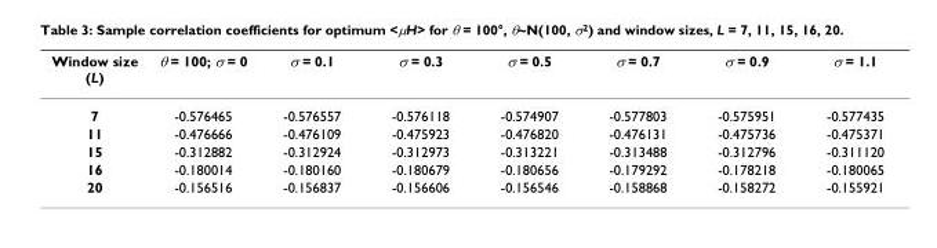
<table><thead><tr><td>Window size (L)</td><td>θ = 100; σ = 0</td><td>σ = 0.1</td><td>σ = 0.3</td><td>σ = 0.5</td><td>σ = 0.7</td><td>σ = 0.9</td><td>σ = 1.1</td></tr></thead><tbody><tr><td>7</td><td>-0.576465</td><td>-0.576557</td><td>-0.576118</td><td>-0.574907</td><td>-0.577803</td><td>-0.575951</td><td>-0.577435</td></tr><tr><td>11</td><td>-0.476666</td><td>-0.476109</td><td>-0.475923</td><td>-0.476820</td><td>-0.476131</td><td>-0.475736</td><td>-0.475371</td></tr><tr><td>15</td><td>-0.312882</td><td>-0.312924</td><td>-0.312973</td><td>-0.313221</td><td>-0.313488</td><td>-0.312796</td><td>-0.311120</td></tr><tr><td>16</td><td>-0.180014</td><td>-0.180160</td><td>-0.180679</td><td>-0.180656</td><td>-0.179292</td><td>-0.178218</td><td>-0.180065</td></tr><tr><td>20</td><td>-0.156516</td><td>-0.156837</td><td>-0.156606</td><td>-0.156546</td><td>-0.158868</td><td>-0.158272</td><td>-0.155921</td></tr></tbody></table>